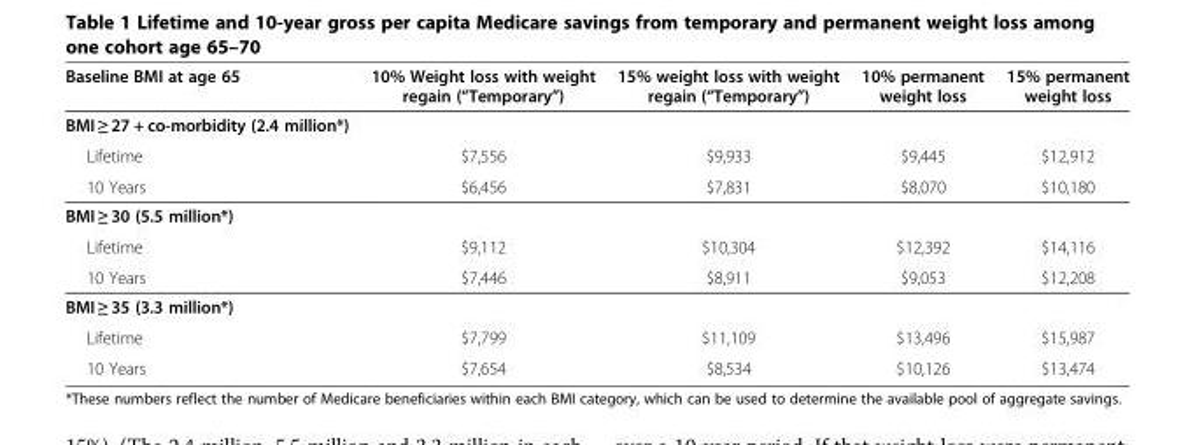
<table><thead><tr><td>Baseline BMI at age 65</td><td>10% Weight loss with weight regain (“Temporary”)</td><td>15% weight loss with weight regain (“Temporary”)</td><td>10% permanent weight loss</td><td>15% permanent weight loss</td></tr></thead><tbody><tr><td colspan="5">BMI ≥ 27 + co-morbidity (2.4 million*)</td></tr><tr><td>Lifetime</td><td>$7,556</td><td>$9,933</td><td>$9,445</td><td>$12,912</td></tr><tr><td>10 Years</td><td>$6,456</td><td>$7,831</td><td>$8,070</td><td>$10,180</td></tr><tr><td colspan="5">BMI ≥ 30 (5.5 million*)</td></tr><tr><td>Lifetime</td><td>$9,112</td><td>$10,304</td><td>$12,392</td><td>$14,116</td></tr><tr><td>10 Years</td><td>$7,446</td><td>$8,911</td><td>$9,053</td><td>$12,208</td></tr><tr><td colspan="5">BMI ≥ 35 (3.3 million*)</td></tr><tr><td>Lifetime</td><td>$7,799</td><td>$11,109</td><td>$13,496</td><td>$15,987</td></tr><tr><td>10 Years</td><td>$7,654</td><td>$8,534</td><td>$10,126</td><td>$13,474</td></tr></tbody></table>